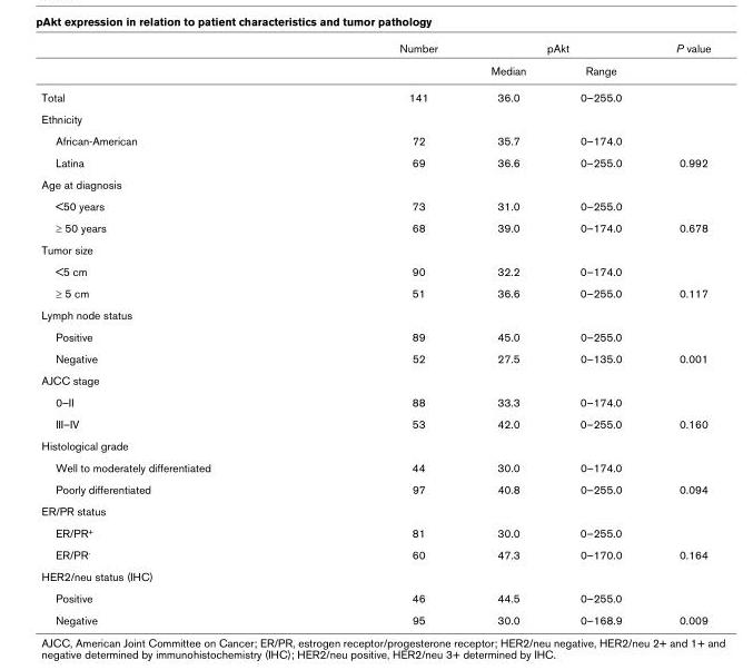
<table><thead><tr><td rowspan="2"></td><td rowspan="2">Number</td><td colspan="2">pAkt</td><td rowspan="2">P value</td></tr><tr><td>Median</td><td>Range</td></tr></thead><tbody><tr><td>Total</td><td>141</td><td>36.0</td><td>0–255.0</td><td></td></tr><tr><td colspan="5">Ethnicity</td></tr><tr><td>African-American</td><td>72</td><td>35.7</td><td>0–174.0</td><td></td></tr><tr><td>Latina</td><td>69</td><td>36.6</td><td>0–255.0</td><td>0.992</td></tr><tr><td colspan="5">Age at diagnosis</td></tr><tr><td>&lt;50 years</td><td>73</td><td>31.0</td><td>0–255.0</td><td></td></tr><tr><td>≥ 50 years</td><td>68</td><td>39.0</td><td>0–174.0</td><td>0.678</td></tr><tr><td colspan="5">Tumor size</td></tr><tr><td>&lt;5 cm</td><td>90</td><td>32.2</td><td>0–174.0</td><td></td></tr><tr><td>≥ 5 cm</td><td>51</td><td>36.6</td><td>0–255.0</td><td>0.117</td></tr><tr><td colspan="5">Lymph node status</td></tr><tr><td>Positive</td><td>89</td><td>45.0</td><td>0–255.0</td><td></td></tr><tr><td>Negative</td><td>52</td><td>27.5</td><td>0–135.0</td><td>0.001</td></tr><tr><td colspan="5">AJCC stage</td></tr><tr><td>0–II</td><td>88</td><td>33.3</td><td>0–174.0</td><td></td></tr><tr><td>III–IV</td><td>53</td><td>42.0</td><td>0–255.0</td><td>0.160</td></tr><tr><td colspan="5">Histological grade</td></tr><tr><td>Well to moderately differentiated</td><td>44</td><td>30.0</td><td>0–174.0</td><td></td></tr><tr><td>Poorly differentiated</td><td>97</td><td>40.8</td><td>0–255.0</td><td>0.094</td></tr><tr><td colspan="5">ER/PR status</td></tr><tr><td>ER/PR<sup>+</sup></td><td>81</td><td>30.0</td><td>0–255.0</td><td></td></tr><tr><td>ER/PR<sup>-</sup></td><td>60</td><td>47.3</td><td>0–170.0</td><td>0.164</td></tr><tr><td colspan="5">HER2/neu status (IHC)</td></tr><tr><td>Positive</td><td>46</td><td>44.5</td><td>0–255.0</td><td></td></tr><tr><td>Negative</td><td>95</td><td>30.0</td><td>0–168.9</td><td>0.009</td></tr></tbody></table>